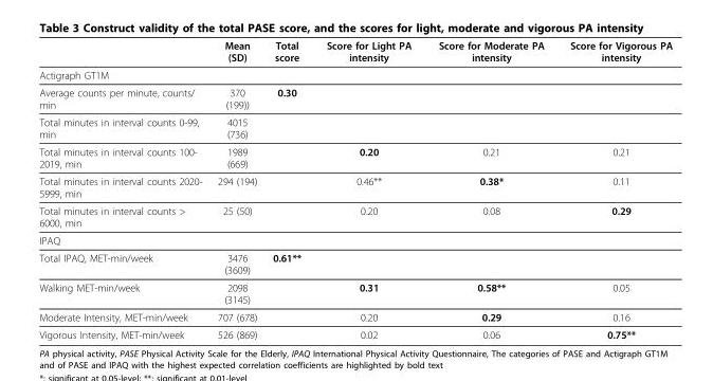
<table><thead><tr><td></td><td>Mean (SD)</td><td>Total score</td><td>Score for Light PA intensity</td><td>Score for Moderate PA intensity</td><td>Score for Vigorous PA intensity</td></tr></thead><tbody><tr><td colspan="6">Actigraph GT1M</td></tr><tr><td>Average counts per minute, counts/ min</td><td>370 (199))</td><td>0.30</td><td></td><td></td><td></td></tr><tr><td>Total minutes in interval counts 0-99, min</td><td>4015 (736)</td><td></td><td></td><td></td><td></td></tr><tr><td>Total minutes in interval counts 100- 2019, min</td><td>1989 (669)</td><td></td><td>0.20</td><td>0.21</td><td>0.21</td></tr><tr><td>Total minutes in interval counts 2020- 5999, min</td><td>294 (194)</td><td></td><td>0.46**</td><td>0.38*</td><td>0.11</td></tr><tr><td>Total minutes in interval counts &gt; 6000, min</td><td>25 (50)</td><td></td><td>0.20</td><td>0.08</td><td>0.29</td></tr><tr><td colspan="6">IPAQ</td></tr><tr><td>Total IPAQ, MET-min/week</td><td>3476 (3609)</td><td>0.61**</td><td></td><td></td><td></td></tr><tr><td>Walking MET-min/week</td><td>2098 (3145)</td><td></td><td>0.31</td><td>0.58**</td><td>0.05</td></tr><tr><td>Moderate Intensity, MET-min/week</td><td>707 (678)</td><td></td><td>0.20</td><td>0.29</td><td>0.16</td></tr><tr><td>Vigorous Intensity, MET-min/week</td><td>526 (869)</td><td></td><td>0.02</td><td>0.06</td><td>0.75**</td></tr></tbody></table>